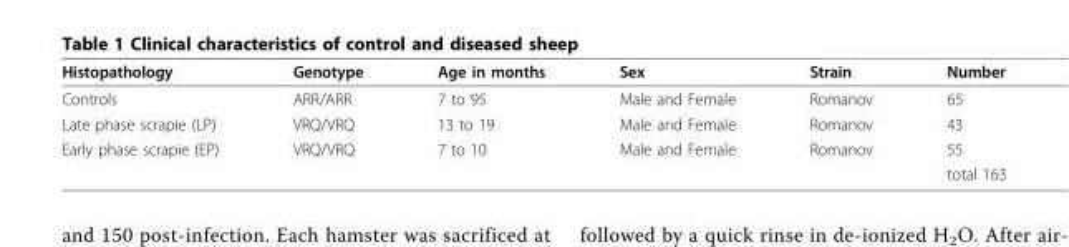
<table><thead><tr><td>Histopathology</td><td>Genotype</td><td>Age in months</td><td>Sex</td><td>Strain</td><td>Number</td></tr></thead><tbody><tr><td>Controls</td><td>ARR/ARR</td><td>7 to 95</td><td>Male and Female</td><td>Romanov</td><td>65</td></tr><tr><td>Late phase scrapie (LP)</td><td>VRQ/VRQ</td><td>13 to 19</td><td>Male and Female</td><td>Romanov</td><td>43</td></tr><tr><td rowspan="2">Early phase scrapie (EP)</td><td>VRQ/VRQ</td><td>7 to 10</td><td>Male and Female</td><td>Romanov</td><td>55</td></tr><tr><td></td><td></td><td></td><td></td><td>total 163</td></tr></tbody></table>